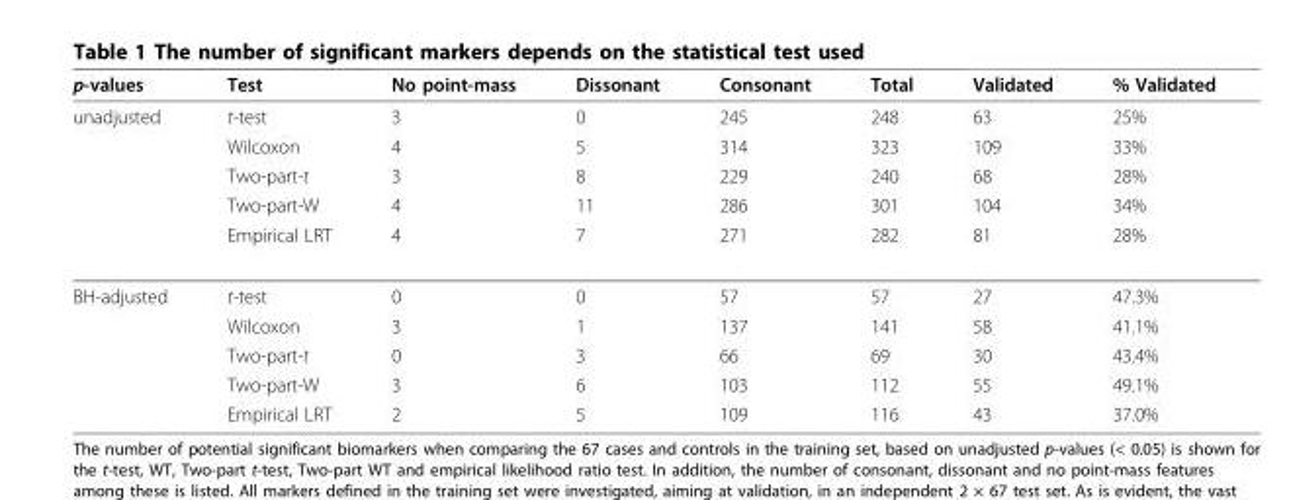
<table><thead><tr><td>p-values</td><td>Test</td><td>No point-mass</td><td>Dissonant</td><td>Consonant</td><td>Total</td><td>Validated</td><td>% Validated</td></tr></thead><tbody><tr><td rowspan="5">unadjusted</td><td>t-test</td><td>3</td><td>0</td><td>245</td><td>248</td><td>63</td><td>25%</td></tr><tr><td>Wilcoxon</td><td>4</td><td>5</td><td>314</td><td>323</td><td>109</td><td>33%</td></tr><tr><td>Two-part-t</td><td>3</td><td>8</td><td>229</td><td>240</td><td>68</td><td>28%</td></tr><tr><td>Two-part-W</td><td>4</td><td>11</td><td>286</td><td>301</td><td>104</td><td>34%</td></tr><tr><td>Empirical LRT</td><td>4</td><td>7</td><td>271</td><td>282</td><td>81</td><td>28%</td></tr><tr><td rowspan="5">BH-adjusted</td><td>t-test</td><td>0</td><td>0</td><td>57</td><td>57</td><td>27</td><td>47.3%</td></tr><tr><td>Wilcoxon</td><td>3</td><td>1</td><td>137</td><td>141</td><td>58</td><td>41.1%</td></tr><tr><td>Two-part-t</td><td>0</td><td>3</td><td>66</td><td>69</td><td>30</td><td>43.4%</td></tr><tr><td>Two-part-W</td><td>3</td><td>6</td><td>103</td><td>112</td><td>55</td><td>49.1%</td></tr><tr><td>Empirical LRT</td><td>2</td><td>5</td><td>109</td><td>116</td><td>43</td><td>37.0%</td></tr></tbody></table>